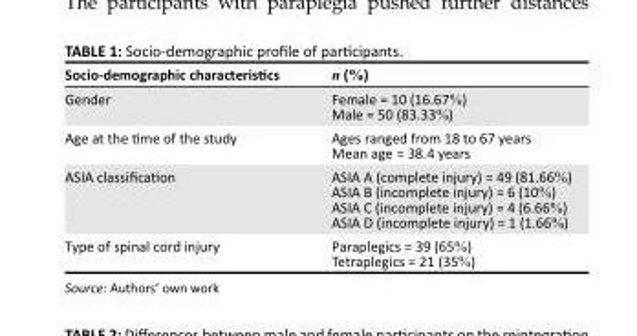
<table><thead><tr><td>Socio-demographic characteristics</td><td>n (%)</td></tr></thead><tbody><tr><td>Gender</td><td>Female = 10 (16.67%) Male = 50 (83.33%)</td></tr><tr><td>Age at the time of the study</td><td>Ages ranged from 18 to 67 years Mean age = 38.4 years</td></tr><tr><td>ASIA classification</td><td>ASIA A (complete injury) = 49 (81.66%) ASIA B (incomplete injury) = 6 (10%) ASIA C (incomplete injury) = 4 (6.66%) ASIA D (incomplete injury) = 1 (1.66%)</td></tr><tr><td>Type of spinal cord injury</td><td>Paraplegics = 39 (65%) Tetraplegics = 21 (35%)</td></tr></tbody></table>